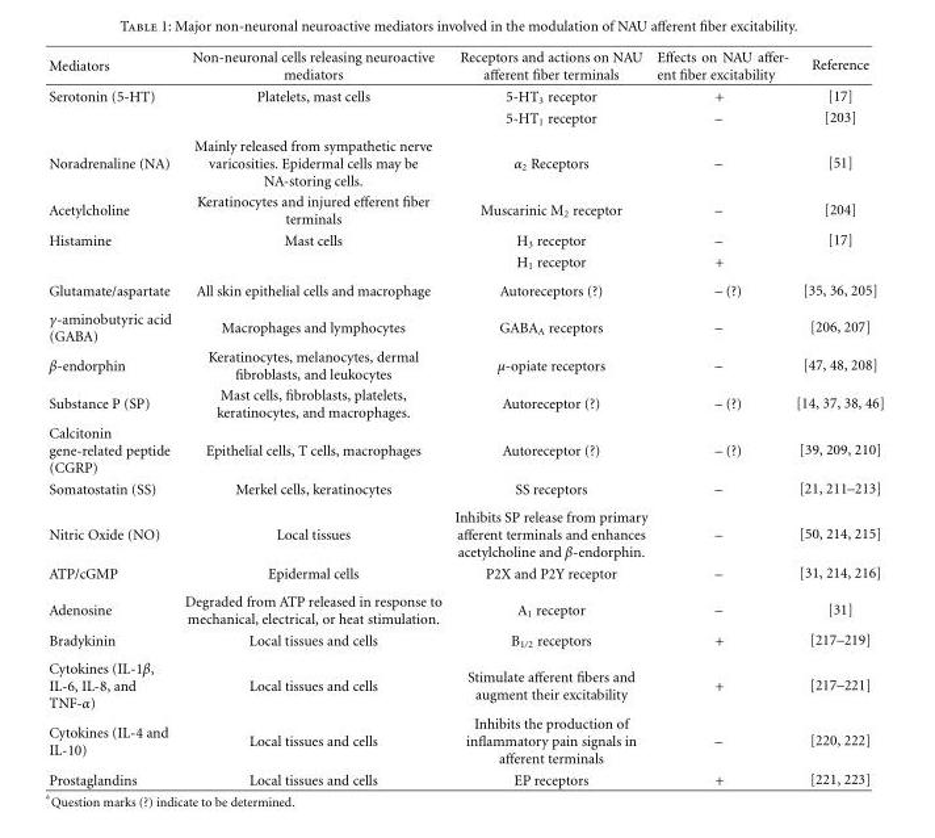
<table><thead><tr><td>Mediators</td><td>Non-neuronal cells releasing neuroactive mediators</td><td>Receptors and actions on NAU afferent fiber terminals</td><td>Effects on NAU affer- ent fiber excitability</td><td>Reference</td></tr></thead><tbody><tr><td rowspan="2">Serotonin (5-HT)</td><td>Platelets, mast cells</td><td>5-HT<sub>3</sub> receptor</td><td>+</td><td>[17]</td></tr><tr><td></td><td>5-HT<sub>1</sub> receptor</td><td>–</td><td>[203]</td></tr><tr><td>Noradrenaline (NA)</td><td>Mainly released from sympathetic nerve varicosities. Epidermal cells may be NA-storing cells.</td><td>α<sub>2</sub> Receptors</td><td>–</td><td>[51]</td></tr><tr><td>Acetylcholine</td><td>Keratinocytes and injured efferent fiber terminals</td><td>Muscarinic M<sub>2</sub> receptor</td><td>–</td><td>[204]</td></tr><tr><td rowspan="2">Histamine</td><td>Mast cells</td><td>H<sub>3</sub> receptor</td><td>–</td><td>[17]</td></tr><tr><td></td><td>H<sub>1</sub> receptor</td><td>+</td><td></td></tr><tr><td>Glutamate/aspartate</td><td>All skin epithelial cells and macrophage</td><td>Autoreceptors (?)</td><td>– (?)</td><td>[35, 36, 205]</td></tr><tr><td>γ-aminobutyric acid (GABA)</td><td>Macrophages and lymphocytes</td><td>GABA<sub>A</sub> receptors</td><td>–</td><td>[206, 207]</td></tr><tr><td>β-endorphin</td><td>Keratinocytes, melanocytes, dermal fibroblasts, and leukocytes</td><td>μ-opiate receptors</td><td>–</td><td>[47, 48, 208]</td></tr><tr><td>Substance P (SP)</td><td>Mast cells, fibroblasts, platelets, keratinocytes, and macrophages.</td><td>Autoreceptor (?)</td><td>– (?)</td><td>[14, 37, 38, 46]</td></tr><tr><td>Calcitonin gene-related peptide (CGRP)</td><td>Epithelial cells, T cells, macrophages</td><td>Autoreceptor (?)</td><td>– (?)</td><td>[39, 209, 210]</td></tr><tr><td>Somatostatin (SS)</td><td>Merkel cells, keratinocytes</td><td>SS receptors</td><td>–</td><td>[21, 211–213]</td></tr><tr><td>Nitric Oxide (NO)</td><td>Local tissues</td><td>Inhibits SP release from primary afferent terminals and enhances acetylcholine and β-endorphin.</td><td>–</td><td>[50, 214, 215]</td></tr><tr><td>ATP/cGMP</td><td>Epidermal cells</td><td>P2X and P2Y receptor</td><td>–</td><td>[31, 214, 216]</td></tr><tr><td>Adenosine</td><td>Degraded from ATP released in response to mechanical, electrical, or heat stimulation.</td><td>A<sub>1</sub> receptor</td><td>–</td><td>[31]</td></tr><tr><td>Bradykinin</td><td>Local tissues and cells</td><td>B<sub>1/2</sub> receptors</td><td>+</td><td>[217–219]</td></tr><tr><td>Cytokines (IL-1β, IL-6, IL-8, and TNF-α)</td><td>Local tissues and cells</td><td>Stimulate afferent fibers and augment their excitability</td><td>+</td><td>[217–221]</td></tr><tr><td>Cytokines (IL-4 and IL-10)</td><td>Local tissues and cells</td><td>Inhibits the production of inflammatory pain signals in afferent terminals</td><td>–</td><td>[220, 222]</td></tr><tr><td>Prostaglandins</td><td>Local tissues and cells</td><td>EP receptors</td><td>+</td><td>[221, 223]</td></tr></tbody></table>